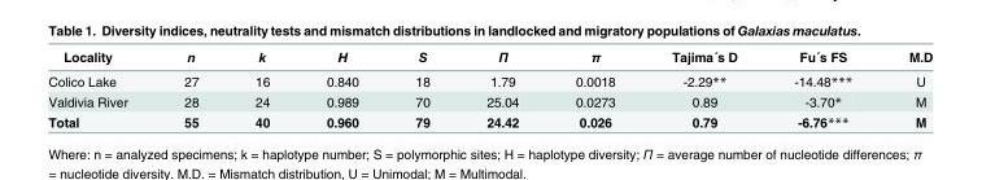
<table><thead><tr><td>Locality</td><td>n</td><td>k</td><td>H</td><td>S</td><td>Π</td><td>π</td><td>Tajima´s D</td><td>Fu´s FS</td><td>M.D</td></tr></thead><tbody><tr><td>Colico Lake</td><td>27</td><td>16</td><td>0.840</td><td>18</td><td>1.79</td><td>0.0018</td><td>-2.29**</td><td>-14.48***</td><td>U</td></tr><tr><td>Valdivia River</td><td>28</td><td>24</td><td>0.989</td><td>70</td><td>25.04</td><td>0.0273</td><td>0.89</td><td>-3.70*</td><td>M</td></tr><tr><td>Total</td><td>55</td><td>40</td><td>0.960</td><td>79</td><td>24.42</td><td>0.026</td><td>0.79</td><td>-6.76***</td><td>M</td></tr></tbody></table>